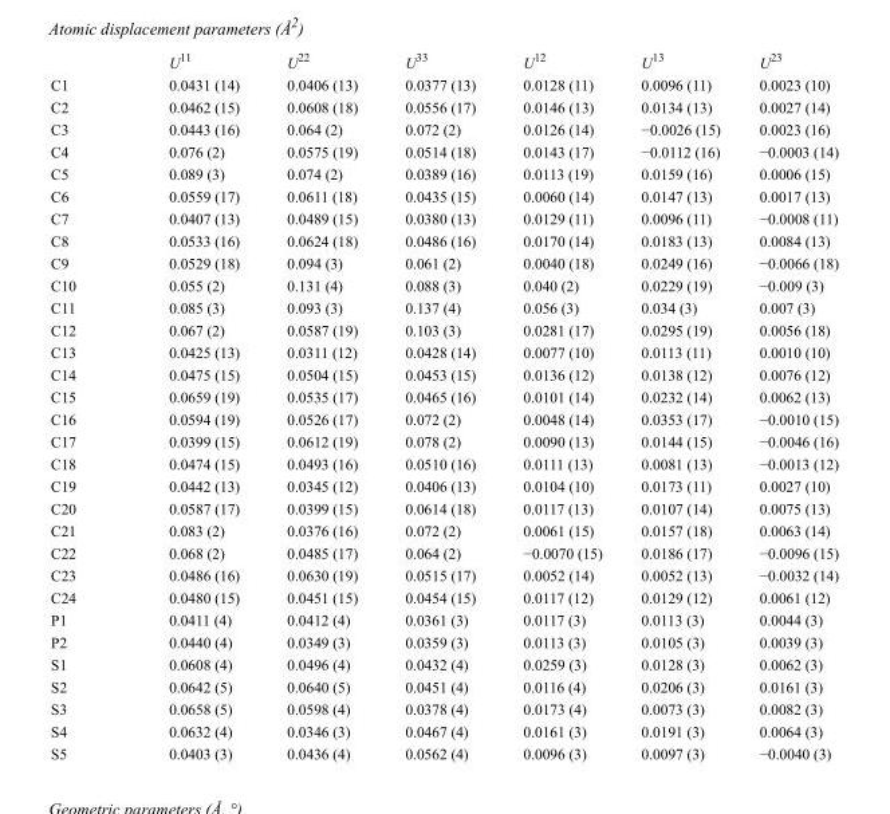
<table><thead><tr><td></td><td>U<sup>11</sup></td><td>U<sup>22</sup></td><td>U<sup>33</sup></td><td>U<sup>12</sup></td><td>U<sup>13</sup></td><td>U<sup>23</sup></td></tr></thead><tbody><tr><td>C1</td><td>0.0431 (14)</td><td>0.0406 (13)</td><td>0.0377 (13)</td><td>0.0128 (11)</td><td>0.0096 (11)</td><td>0.0023 (10)</td></tr><tr><td>C2</td><td>0.0462 (15)</td><td>0.0608 (18)</td><td>0.0556 (17)</td><td>0.0146 (13)</td><td>0.0134 (13)</td><td>0.0027 (14)</td></tr><tr><td>C3</td><td>0.0443 (16)</td><td>0.064 (2)</td><td>0.072 (2)</td><td>0.0126 (14)</td><td>−0.0026 (15)</td><td>0.0023 (16)</td></tr><tr><td>C4</td><td>0.076 (2)</td><td>0.0575 (19)</td><td>0.0514 (18)</td><td>0.0143 (17)</td><td>−0.0112 (16)</td><td>−0.0003 (14)</td></tr><tr><td>C5</td><td>0.089 (3)</td><td>0.074 (2)</td><td>0.0389 (16)</td><td>0.0113 (19)</td><td>0.0159 (16)</td><td>0.0006 (15)</td></tr><tr><td>C6</td><td>0.0559 (17)</td><td>0.0611 (18)</td><td>0.0435 (15)</td><td>0.0060 (14)</td><td>0.0147 (13)</td><td>0.0017 (13)</td></tr><tr><td>C7</td><td>0.0407 (13)</td><td>0.0489 (15)</td><td>0.0380 (13)</td><td>0.0129 (11)</td><td>0.0096 (11)</td><td>−0.0008 (11)</td></tr><tr><td>C8</td><td>0.0533 (16)</td><td>0.0624 (18)</td><td>0.0486 (16)</td><td>0.0170 (14)</td><td>0.0183 (13)</td><td>0.0084 (13)</td></tr><tr><td>C9</td><td>0.0529 (18)</td><td>0.094 (3)</td><td>0.061 (2)</td><td>0.0040 (18)</td><td>0.0249 (16)</td><td>−0.0066 (18)</td></tr><tr><td>C10</td><td>0.055 (2)</td><td>0.131 (4)</td><td>0.088 (3)</td><td>0.040 (2)</td><td>0.0229 (19)</td><td>−0.009 (3)</td></tr><tr><td>C11</td><td>0.085 (3)</td><td>0.093 (3)</td><td>0.137 (4)</td><td>0.056 (3)</td><td>0.034 (3)</td><td>0.007 (3)</td></tr><tr><td>C12</td><td>0.067 (2)</td><td>0.0587 (19)</td><td>0.103 (3)</td><td>0.0281 (17)</td><td>0.0295 (19)</td><td>0.0056 (18)</td></tr><tr><td>C13</td><td>0.0425 (13)</td><td>0.0311 (12)</td><td>0.0428 (14)</td><td>0.0077 (10)</td><td>0.0113 (11)</td><td>0.0010 (10)</td></tr><tr><td>C14</td><td>0.0475 (15)</td><td>0.0504 (15)</td><td>0.0453 (15)</td><td>0.0136 (12)</td><td>0.0138 (12)</td><td>0.0076 (12)</td></tr><tr><td>C15</td><td>0.0659 (19)</td><td>0.0535 (17)</td><td>0.0465 (16)</td><td>0.0101 (14)</td><td>0.0232 (14)</td><td>0.0062 (13)</td></tr><tr><td>C16</td><td>0.0594 (19)</td><td>0.0526 (17)</td><td>0.072 (2)</td><td>0.0048 (14)</td><td>0.0353 (17)</td><td>−0.0010 (15)</td></tr><tr><td>C17</td><td>0.0399 (15)</td><td>0.0612 (19)</td><td>0.078 (2)</td><td>0.0090 (13)</td><td>0.0144 (15)</td><td>−0.0046 (16)</td></tr><tr><td>C18</td><td>0.0474 (15)</td><td>0.0493 (16)</td><td>0.0510 (16)</td><td>0.0111 (13)</td><td>0.0081 (13)</td><td>−0.0013 (12)</td></tr><tr><td>C19</td><td>0.0442 (13)</td><td>0.0345 (12)</td><td>0.0406 (13)</td><td>0.0104 (10)</td><td>0.0173 (11)</td><td>0.0027 (10)</td></tr><tr><td>C20</td><td>0.0587 (17)</td><td>0.0399 (15)</td><td>0.0614 (18)</td><td>0.0117 (13)</td><td>0.0107 (14)</td><td>0.0075 (13)</td></tr><tr><td>C21</td><td>0.083 (2)</td><td>0.0376 (16)</td><td>0.072 (2)</td><td>0.0061 (15)</td><td>0.0157 (18)</td><td>0.0063 (14)</td></tr><tr><td>C22</td><td>0.068 (2)</td><td>0.0485 (17)</td><td>0.064 (2)</td><td>−0.0070 (15)</td><td>0.0186 (17)</td><td>−0.0096 (15)</td></tr><tr><td>C23</td><td>0.0486 (16)</td><td>0.0630 (19)</td><td>0.0515 (17)</td><td>0.0052 (14)</td><td>0.0052 (13)</td><td>−0.0032 (14)</td></tr><tr><td>C24</td><td>0.0480 (15)</td><td>0.0451 (15)</td><td>0.0454 (15)</td><td>0.0117 (12)</td><td>0.0129 (12)</td><td>0.0061 (12)</td></tr><tr><td>P1</td><td>0.0411 (4)</td><td>0.0412 (4)</td><td>0.0361 (3)</td><td>0.0117 (3)</td><td>0.0113 (3)</td><td>0.0044 (3)</td></tr><tr><td>P2</td><td>0.0440 (4)</td><td>0.0349 (3)</td><td>0.0359 (3)</td><td>0.0113 (3)</td><td>0.0105 (3)</td><td>0.0039 (3)</td></tr><tr><td>S1</td><td>0.0608 (4)</td><td>0.0496 (4)</td><td>0.0432 (4)</td><td>0.0259 (3)</td><td>0.0128 (3)</td><td>0.0062 (3)</td></tr><tr><td>S2</td><td>0.0642 (5)</td><td>0.0640 (5)</td><td>0.0451 (4)</td><td>0.0116 (4)</td><td>0.0206 (3)</td><td>0.0161 (3)</td></tr><tr><td>S3</td><td>0.0658 (5)</td><td>0.0598 (4)</td><td>0.0378 (4)</td><td>0.0173 (4)</td><td>0.0073 (3)</td><td>0.0082 (3)</td></tr><tr><td>S4</td><td>0.0632 (4)</td><td>0.0346 (3)</td><td>0.0467 (4)</td><td>0.0161 (3)</td><td>0.0191 (3)</td><td>0.0064 (3)</td></tr><tr><td>S5</td><td>0.0403 (3)</td><td>0.0436 (4)</td><td>0.0562 (4)</td><td>0.0096 (3)</td><td>0.0097 (3)</td><td>−0.0040 (3)</td></tr></tbody></table>